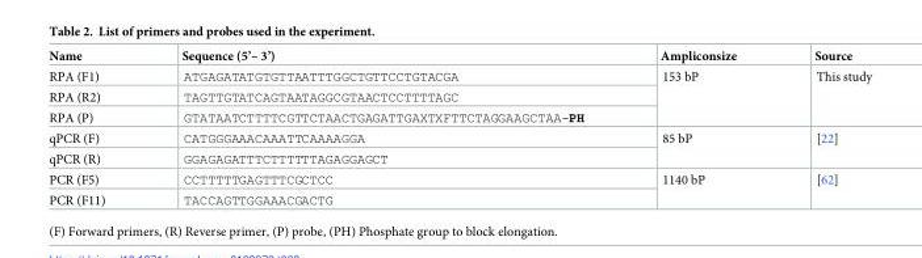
<table><thead><tr><td>Name</td><td>Sequence (5’– 3’)</td><td>Ampliconsize</td><td>Source</td></tr></thead><tbody><tr><td>RPA (F1)</td><td>ATGAGATATGTGTTAATTTGGCTGTTCCTGTACGA</td><td rowspan="3">153 bP</td><td rowspan="3">This study</td></tr><tr><td>RPA (R2)</td><td>TAGTTGTATCAGTAATAGGCGTAACTCCTTTTAGC</td></tr><tr><td>RPA (P)</td><td>GTATAATCTTTTCGTTCTAACTGAGATTGAXTXFTTCTAGGAAGCTAA-PH</td></tr><tr><td>qPCR (F)</td><td>CATGGGAAACAAATTCAAAAGGA</td><td rowspan="2">85 bP</td><td rowspan="2">[22]</td></tr><tr><td>qPCR (R)</td><td>GGAGAGATTTCTTTTTTAGAGGAGCT</td></tr><tr><td>PCR (F5)</td><td>CCTTTTTGAGTTTCGCTCC</td><td rowspan="2">1140 bP</td><td rowspan="2">[62]</td></tr><tr><td>PCR (F11)</td><td>TACCAGTTGGAAACGACTG</td></tr></tbody></table>